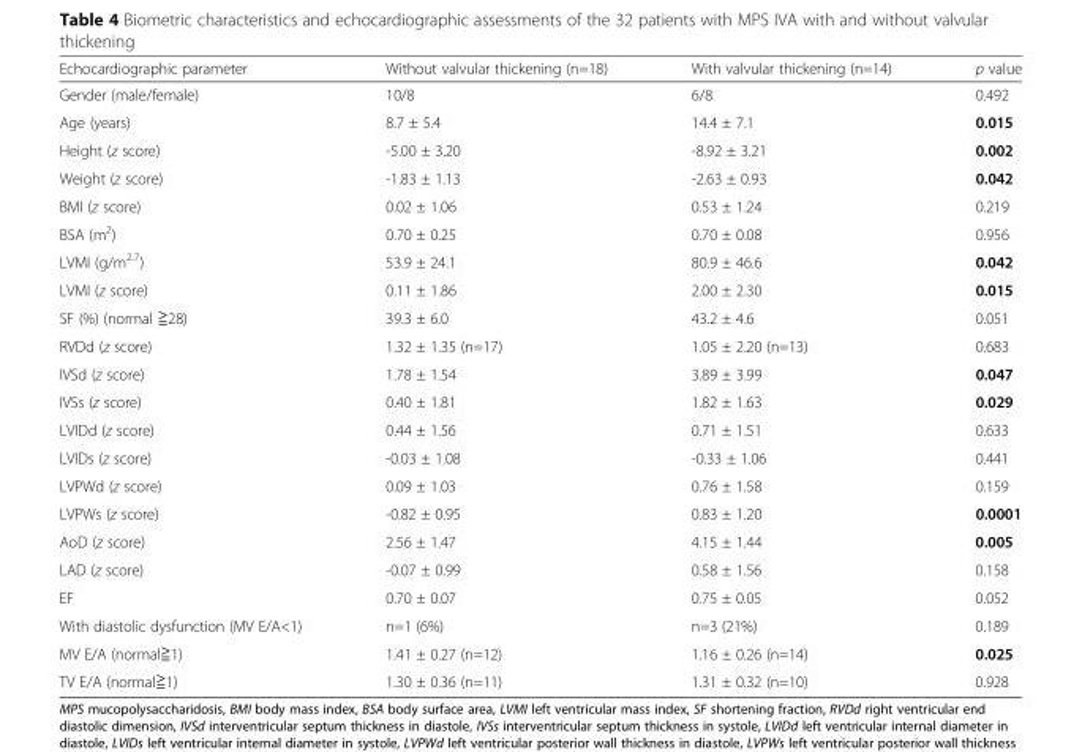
<table><thead><tr><td>Echocardiographic parameter</td><td>Without valvular thickening (n=18)</td><td>With valvular thickening (n=14)</td><td>p value</td></tr></thead><tbody><tr><td>Gender (male/female)</td><td>10/8</td><td>6/8</td><td>0.492</td></tr><tr><td>Age (years)</td><td>8.7 ± 5.4</td><td>14.4 ± 7.1</td><td>0.015</td></tr><tr><td>Height (z score)</td><td>-5.00 ± 3.20</td><td>-8.92 ± 3.21</td><td>0.002</td></tr><tr><td>Weight (z score)</td><td>-1.83 ± 1.13</td><td>-2.63 ± 0.93</td><td>0.042</td></tr><tr><td>BMI (z score)</td><td>0.02 ± 1.06</td><td>0.53 ± 1.24</td><td>0.219</td></tr><tr><td>BSA (m<sup>2</sup>)</td><td>0.70 ± 0.25</td><td>0.70 ± 0.08</td><td>0.956</td></tr><tr><td>LVMI (g/m<sup>2.7</sup>)</td><td>53.9 ± 24.1</td><td>80.9 ± 46.6</td><td>0.042</td></tr><tr><td>LVMI (z score)</td><td>0.11 ± 1.86</td><td>2.00 ± 2.30</td><td>0.015</td></tr><tr><td>SF (%) (normal ≧28)</td><td>39.3 ± 6.0</td><td>43.2 ± 4.6</td><td>0.051</td></tr><tr><td>RVDd (z score)</td><td>1.32 ± 1.35 (n=17)</td><td>1.05 ± 2.20 (n=13)</td><td>0.683</td></tr><tr><td>IVSd (z score)</td><td>1.78 ± 1.54</td><td>3.89 ± 3.99</td><td>0.047</td></tr><tr><td>IVSs (z score)</td><td>0.40 ± 1.81</td><td>1.82 ± 1.63</td><td>0.029</td></tr><tr><td>LVIDd (z score)</td><td>0.44 ± 1.56</td><td>0.71 ± 1.51</td><td>0.633</td></tr><tr><td>LVIDs (z score)</td><td>-0.03 ± 1.08</td><td>-0.33 ± 1.06</td><td>0.441</td></tr><tr><td>LVPWd (z score)</td><td>0.09 ± 1.03</td><td>0.76 ± 1.58</td><td>0.159</td></tr><tr><td>LVPWs (z score)</td><td>-0.82 ± 0.95</td><td>0.83 ± 1.20</td><td>0.0001</td></tr><tr><td>AoD (z score)</td><td>2.56 ± 1.47</td><td>4.15 ± 1.44</td><td>0.005</td></tr><tr><td>LAD (z score)</td><td>-0.07 ± 0.99</td><td>0.58 ± 1.56</td><td>0.158</td></tr><tr><td>EF</td><td>0.70 ± 0.07</td><td>0.75 ± 0.05</td><td>0.052</td></tr><tr><td>With diastolic dysfunction (MV E/A&lt;1)</td><td>n=1 (6%)</td><td>n=3 (21%)</td><td>0.189</td></tr><tr><td>MV E/A (normal≧1)</td><td>1.41 ± 0.27 (n=12)</td><td>1.16 ± 0.26 (n=14)</td><td>0.025</td></tr><tr><td>TV E/A (normal≧1)</td><td>1.30 ± 0.36 (n=11)</td><td>1.31 ± 0.32 (n=10)</td><td>0.928</td></tr></tbody></table>